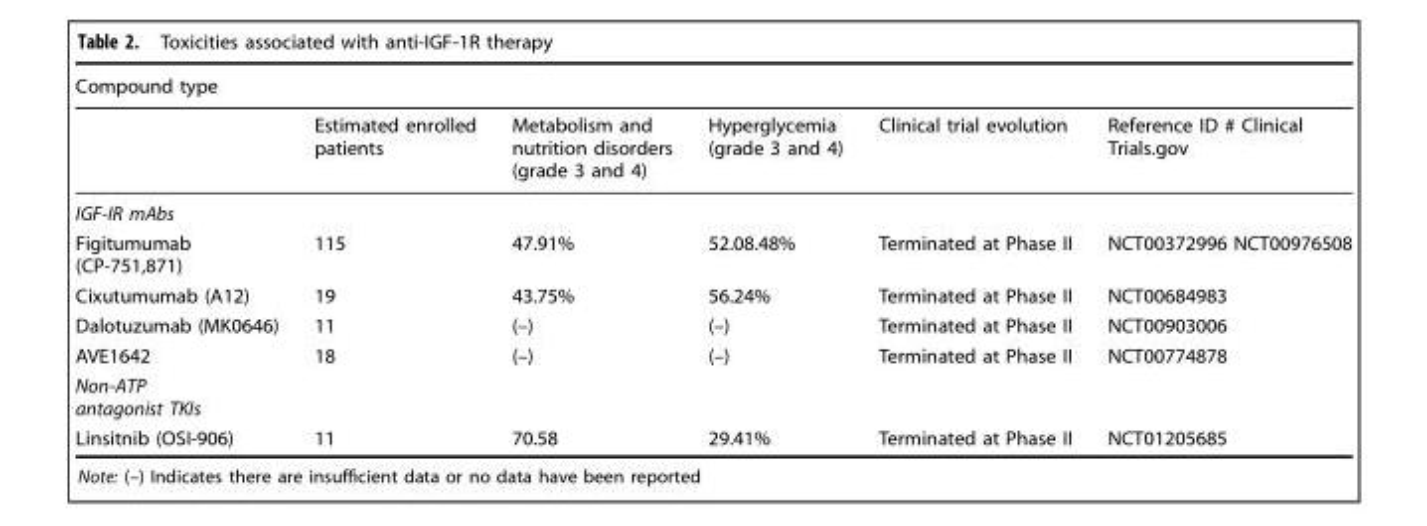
<table><thead><tr><td colspan="6">Compound type</td></tr><tr><td></td><td>Estimated enrolled patients</td><td>Metabolism and nutrition disorders (grade 3 and 4)</td><td>Hyperglycemia (grade 3 and 4)</td><td>Clinical trial evolution</td><td>Reference ID # Clinical Trials.gov</td></tr></thead><tbody><tr><td colspan="6">IGF-IR mAbs</td></tr><tr><td>Figitumumab (CP-751,871)</td><td>115</td><td>47.91%</td><td>52.08.48%</td><td>Terminated at Phase II</td><td>NCT00372996 NCT00976508</td></tr><tr><td>Cixutumumab (A12)</td><td>19</td><td>43.75%</td><td>56.24%</td><td>Terminated at Phase II</td><td>NCT00684983</td></tr><tr><td>Dalotuzumab (MK0646)</td><td>11</td><td>(–)</td><td>(–)</td><td>Terminated at Phase II</td><td>NCT00903006</td></tr><tr><td>AVE1642</td><td>18</td><td>(–)</td><td>(–)</td><td>Terminated at Phase II</td><td>NCT00774878</td></tr><tr><td colspan="6">Non-ATP antagonist TKIs</td></tr><tr><td>Linsitnib (OSI-906)</td><td>11</td><td>70.58</td><td>29.41%</td><td>Terminated at Phase II</td><td>NCT01205685</td></tr></tbody></table>